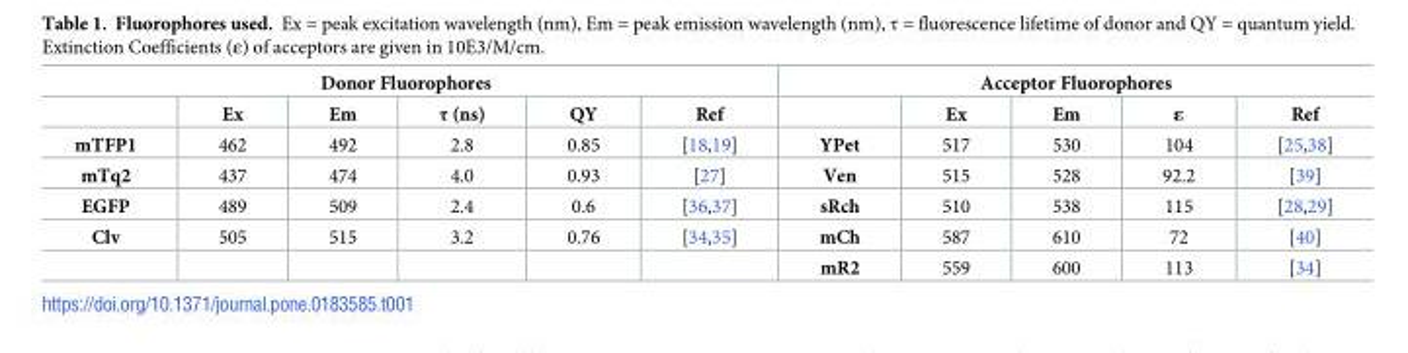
<table><thead><tr><td colspan="6">Donor Fluorophores</td><td colspan="5">Acceptor Fluorophores</td></tr><tr><td></td><td>Ex</td><td>Em</td><td>τ (ns)</td><td>QY</td><td>Ref</td><td></td><td>Ex</td><td>Em</td><td>ε</td><td>Ref</td></tr></thead><tbody><tr><td>mTFP1</td><td>462</td><td>492</td><td>2.8</td><td>0.85</td><td>[18,19]</td><td>YPet</td><td>517</td><td>530</td><td>104</td><td>[25,38]</td></tr><tr><td>mTq2</td><td>437</td><td>474</td><td>4.0</td><td>0.93</td><td>[27]</td><td>Ven</td><td>515</td><td>528</td><td>92.2</td><td>[39]</td></tr><tr><td>EGFP</td><td>489</td><td>509</td><td>2.4</td><td>0.6</td><td>[36,37]</td><td>sRch</td><td>510</td><td>538</td><td>115</td><td>[28,29]</td></tr><tr><td rowspan="2">Clv</td><td>505</td><td>515</td><td>3.2</td><td>0.76</td><td>[34,35]</td><td>mCh</td><td>587</td><td>610</td><td>72</td><td>[40]</td></tr><tr><td></td><td></td><td></td><td></td><td></td><td>mR2</td><td>559</td><td>600</td><td>113</td><td>[34]</td></tr></tbody></table>